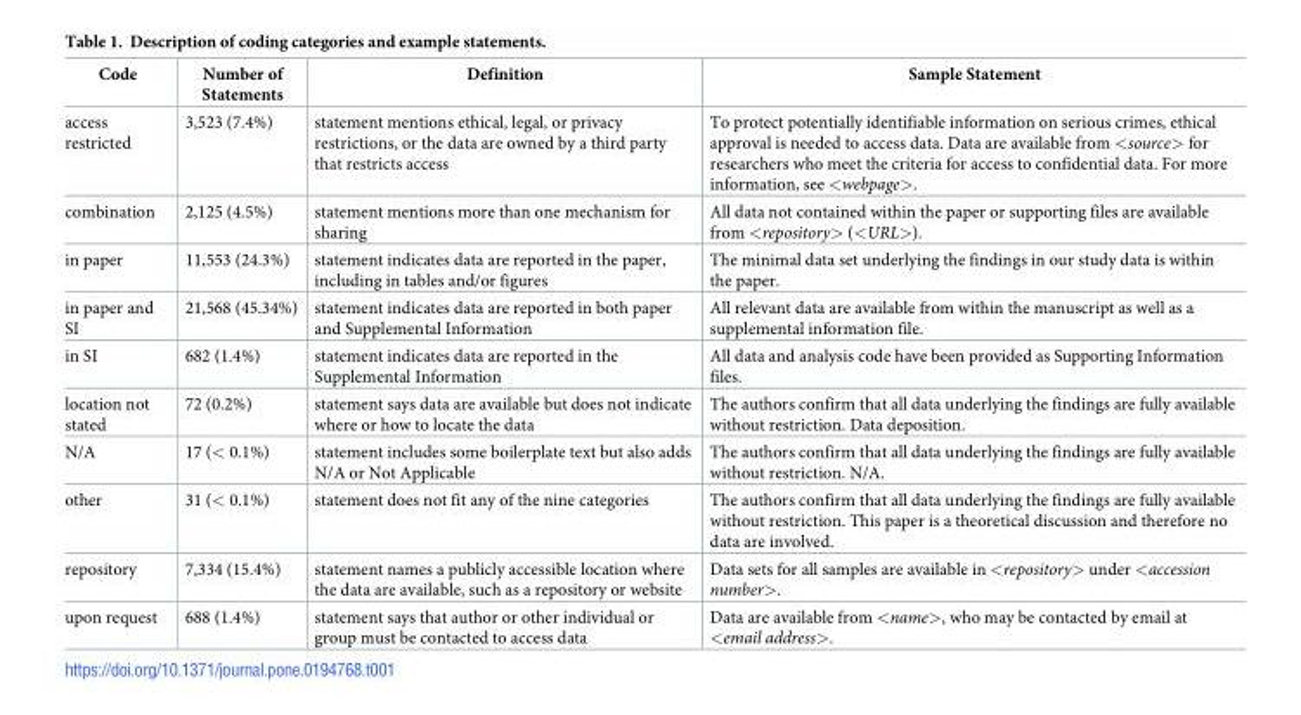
<table><thead><tr><td>Code</td><td>Number of Statements</td><td>Definition</td><td>Sample Statement</td></tr></thead><tbody><tr><td>access restricted</td><td>3,523 (7.4%)</td><td>statement mentions ethical, legal, or privacy restrictions, or the data are owned by a third party that restricts access</td><td>To protect potentially identifiable information on serious crimes, ethical approval is needed to access data. Data are available from &lt;source&gt; for researchers who meet the criteria for access to confidential data. For more information, see &lt;webpage&gt;.</td></tr><tr><td>combination</td><td>2,125 (4.5%)</td><td>statement mentions more than one mechanism for sharing</td><td>All data not contained within the paper or supporting files are available from &lt;repository&gt; (&lt;URL&gt;).</td></tr><tr><td>in paper</td><td>11,553 (24.3%)</td><td>statement indicates data are reported in the paper, including in tables and/or figures</td><td>The minimal data set underlying the findings in our study data is within the paper.</td></tr><tr><td>in paper and SI</td><td>21,568 (45.34%)</td><td>statement indicates data are reported in both paper and Supplemental Information</td><td>All relevant data are available from within the manuscript as well as a supplemental information file.</td></tr><tr><td>in SI</td><td>682 (1.4%)</td><td>statement indicates data are reported in the Supplemental Information</td><td>All data and analysis code have been provided as Supporting Information files.</td></tr><tr><td>location not stated</td><td>72 (0.2%)</td><td>statement says data are available but does not indicate where or how to locate the data</td><td>The authors confirm that all data underlying the findings are fully available without restriction. Data deposition.</td></tr><tr><td>N/A</td><td>17 (&lt; 0.1%)</td><td>statement includes some boilerplate text but also adds N/A or Not Applicable</td><td>The authors confirm that all data underlying the findings are fully available without restriction. N/A.</td></tr><tr><td>other</td><td>31 (&lt; 0.1%)</td><td>statement does not fit any of the nine categories</td><td>The authors confirm that all data underlying the findings are fully available without restriction. This paper is a theoretical discussion and therefore no data are involved.</td></tr><tr><td>repository</td><td>7,334 (15.4%)</td><td>statement names a publicly accessible location where the data are available, such as a repository or website</td><td>Data sets for all samples are available in &lt;repository&gt; under &lt;accession number&gt;.</td></tr><tr><td>upon request</td><td>688 (1.4%)</td><td>statement says that author or other individual or group must be contacted to access data</td><td>Data are available from &lt;name&gt;, who may be contacted by email at &lt;email address&gt;.</td></tr></tbody></table>